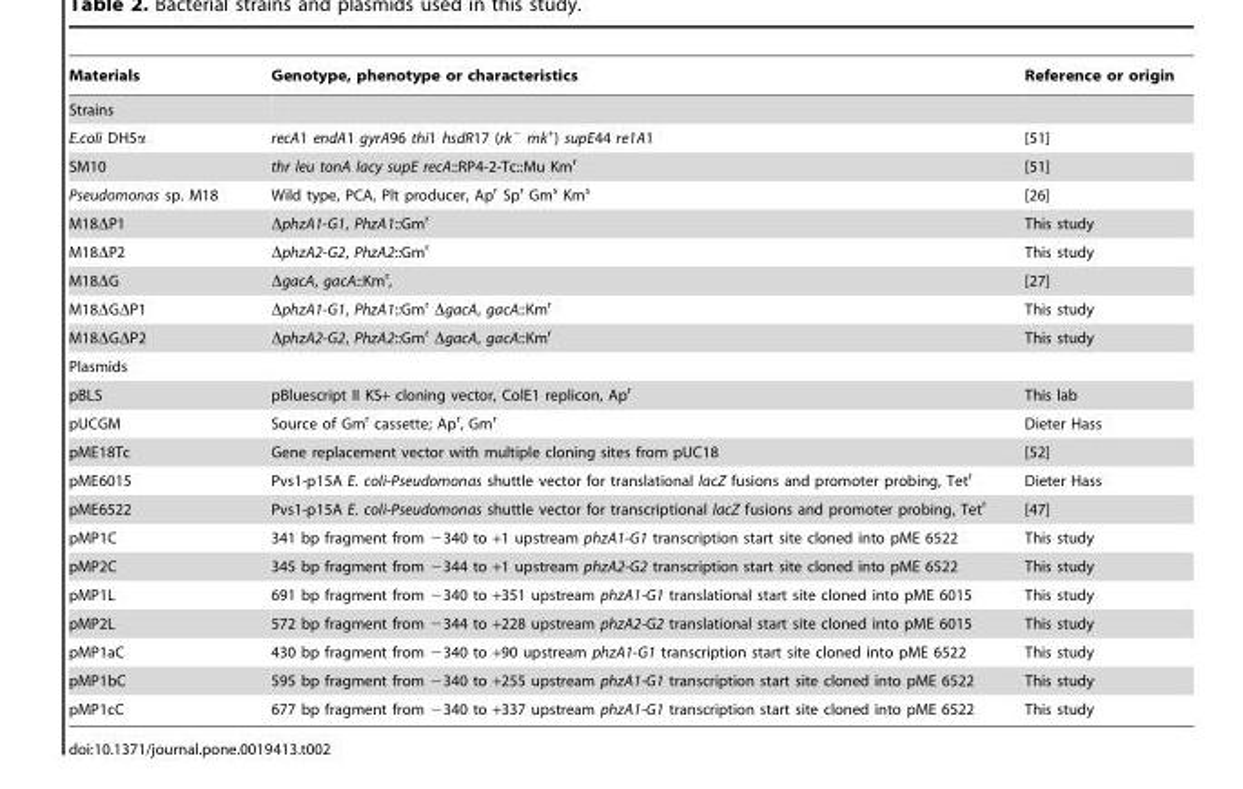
<table><thead><tr><td>Materials</td><td>Genotype, phenotype or characteristics</td><td>Reference or origin</td></tr></thead><tbody><tr><td colspan="3">Strains</td></tr><tr><td>E.coli DH5α</td><td>recA1 endA1 gyrA96 thi1 hsdR17 (rk<sup>−</sup> mk<sup>+</sup>) supE44 re1A1</td><td>[51]</td></tr><tr><td>SM10</td><td>thr leu tonA lacy supE recA::RP4-2-Tc::Mu Km<sup>r</sup></td><td>[51]</td></tr><tr><td>Pseudomonas sp. M18</td><td>Wild type, PCA, Plt producer, Ap<sup>r</sup> Sp<sup>r</sup> Gm<sup>s</sup> Km<sup>s</sup></td><td>[26]</td></tr><tr><td>M18ΔP1</td><td>ΔphzA1-G1, PhzA1::Gm<sup>r</sup></td><td>This study</td></tr><tr><td>M18ΔP2</td><td>ΔphzA2-G2, PhzA2::Gm<sup>r</sup></td><td>This study</td></tr><tr><td>M18ΔG</td><td>ΔgacA, gacA::Km<sup>r</sup>,</td><td>[27]</td></tr><tr><td>M18ΔGΔP1</td><td>ΔphzA1-G1, PhzA1::Gm<sup>r</sup> ΔgacA, gacA::Km<sup>r</sup></td><td>This study</td></tr><tr><td>M18ΔGΔP2</td><td>ΔphzA2-G2, PhzA2::Gm<sup>r</sup> ΔgacA, gacA::Km<sup>r</sup></td><td>This study</td></tr><tr><td colspan="3">Plasmids</td></tr><tr><td>pBLS</td><td>pBluescript II KS+ cloning vector, ColE1 replicon, Ap<sup>r</sup></td><td>This lab</td></tr><tr><td>pUCGM</td><td>Source of Gm<sup>r</sup> cassette; Ap<sup>r</sup>, Gm<sup>r</sup></td><td>Dieter Hass</td></tr><tr><td>pME18Tc</td><td>Gene replacement vector with multiple cloning sites from pUC18</td><td>[52]</td></tr><tr><td>pME6015</td><td>Pvs1-p15A E. coli-Pseudomonas shuttle vector for translational lacZ fusions and promoter probing, Tet<sup>r</sup></td><td>Dieter Hass</td></tr><tr><td>pME6522</td><td>Pvs1-p15A E. coli-Pseudomonas shuttle vector for transcriptional lacZ fusions and promoter probing, Tet<sup>r</sup></td><td>[47]</td></tr><tr><td>pMP1C</td><td>341 bp fragment from −340 to +1 upstream phzA1-G1 transcription start site cloned into pME 6522</td><td>This study</td></tr><tr><td>pMP2C</td><td>345 bp fragment from −344 to +1 upstream phzA2-G2 transcription start site cloned into pME 6522</td><td>This study</td></tr><tr><td>pMP1L</td><td>691 bp fragment from −340 to +351 upstream phzA1-G1 translational start site cloned into pME 6015</td><td>This study</td></tr><tr><td>pMP2L</td><td>572 bp fragment from −344 to +228 upstream phzA2-G2 translational start site cloned into pME 6015</td><td>This study</td></tr><tr><td>pMP1aC</td><td>430 bp fragment from −340 to +90 upstream phzA1-G1 transcription start site cloned into pME 6522</td><td>This study</td></tr><tr><td>pMP1bC</td><td>595 bp fragment from −340 to +255 upstream phzA1-G1 transcription start site cloned into pME 6522</td><td>This study</td></tr><tr><td>pMP1cC</td><td>677 bp fragment from −340 to +337 upstream phzA1-G1 transcription start site cloned into pME 6522</td><td>This study</td></tr></tbody></table>